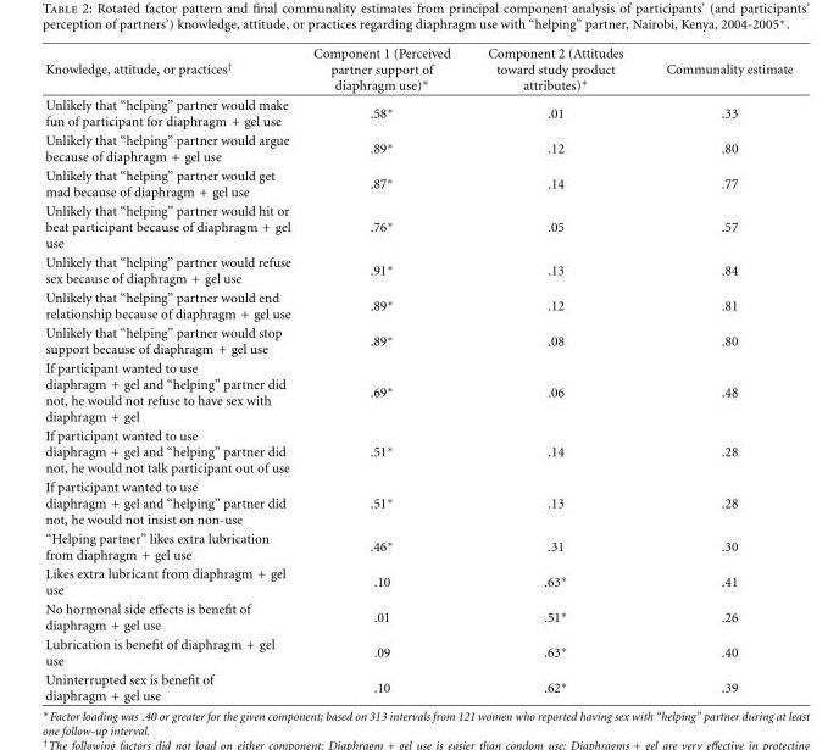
<table><thead><tr><td>Knowledge, attitude, or practices<sup>†</sup></td><td>Component 1 (Perceived partner support of diaphragm use)∗</td><td>Component 2 (Attitudes toward study product attributes)∗</td><td>Communality estimate</td></tr></thead><tbody><tr><td>Unlikely that “helping” partner would make fun of participant for diaphragm + gel use</td><td>.58∗</td><td>.01</td><td>.33</td></tr><tr><td>Unlikely that “helping” partner would argue because of diaphragm + gel use</td><td>.89∗</td><td>.12</td><td>.80</td></tr><tr><td>Unlikely that “helping” partner would get mad because of diaphragm + gel use</td><td>.87∗</td><td>.14</td><td>.77</td></tr><tr><td>Unlikely that “helping” partner would hit or beat participant because of diaphragm + gel use</td><td>.76∗</td><td>.05</td><td>.57</td></tr><tr><td>Unlikely that “helping” partner would refuse sex because of diaphragm + gel use</td><td>.91∗</td><td>.13</td><td>.84</td></tr><tr><td>Unlikely that “helping” partner would end relationship because of diaphragm + gel use</td><td>.89∗</td><td>.12</td><td>.81</td></tr><tr><td>Unlikely that “helping” partner would stop support because of diaphragm + gel use</td><td>.89∗</td><td>.08</td><td>.80</td></tr><tr><td>If participant wanted to use diaphragm + gel and “helping” partner did not, he would not refuse to have sex with diaphragm + gel</td><td>.69∗</td><td>.06</td><td>.48</td></tr><tr><td>If participant wanted to use diaphragm + gel and “helping” partner did not, he would not talk participant out of use</td><td>.51∗</td><td>.14</td><td>.28</td></tr><tr><td>If participant wanted to use diaphragm + gel and “helping” partner did not, he would not insist on non-use</td><td>.51∗</td><td>.13</td><td>.28</td></tr><tr><td>“Helping partner” likes extra lubrication from diaphragm + gel use</td><td>.46∗</td><td>.31</td><td>.30</td></tr><tr><td>Likes extra lubricant from diaphragm + gel use</td><td>.10</td><td>.63∗</td><td>.41</td></tr><tr><td>No hormonal side effects is benefit of diaphragm + gel use</td><td>.01</td><td>.51∗</td><td>.26</td></tr><tr><td>Lubrication is benefit of diaphragm + gel use</td><td>.09</td><td>.63∗</td><td>.40</td></tr><tr><td>Uninterrupted sex is benefit of diaphragm + gel use</td><td>.10</td><td>.62∗</td><td>.39</td></tr></tbody></table>